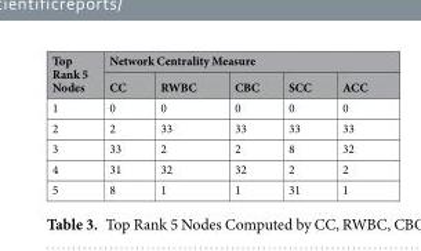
<table><thead><tr><td rowspan="2">Top Rank 5 Nodes</td><td colspan="5">Network Centrality Measure</td></tr><tr><td>CC</td><td>RWBC</td><td>CBC</td><td>SCC</td><td>ACC</td></tr></thead><tbody><tr><td>1</td><td>0</td><td>0</td><td>0</td><td>0</td><td>0</td></tr><tr><td>2</td><td>2</td><td>33</td><td>33</td><td>33</td><td>33</td></tr><tr><td>3</td><td>33</td><td>2</td><td>2</td><td>8</td><td>32</td></tr><tr><td>4</td><td>31</td><td>32</td><td>32</td><td>2</td><td>2</td></tr><tr><td>5</td><td>8</td><td>1</td><td>1</td><td>31</td><td>1</td></tr></tbody></table>